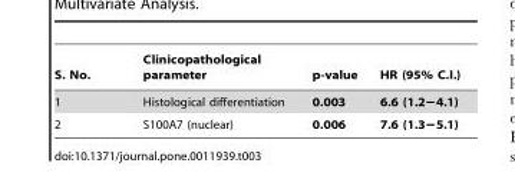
<table><thead><tr><td>S. No.</td><td>Clinicopathological parameter</td><td>p-value</td><td>HR (95% C.I.)</td></tr></thead><tbody><tr><td>1</td><td>Histological differentiation</td><td>0.003</td><td>6.6 (1.2−4.1)</td></tr><tr><td>2</td><td>S100A7 (nuclear)</td><td>0.006</td><td>7.6 (1.3−5.1)</td></tr></tbody></table>